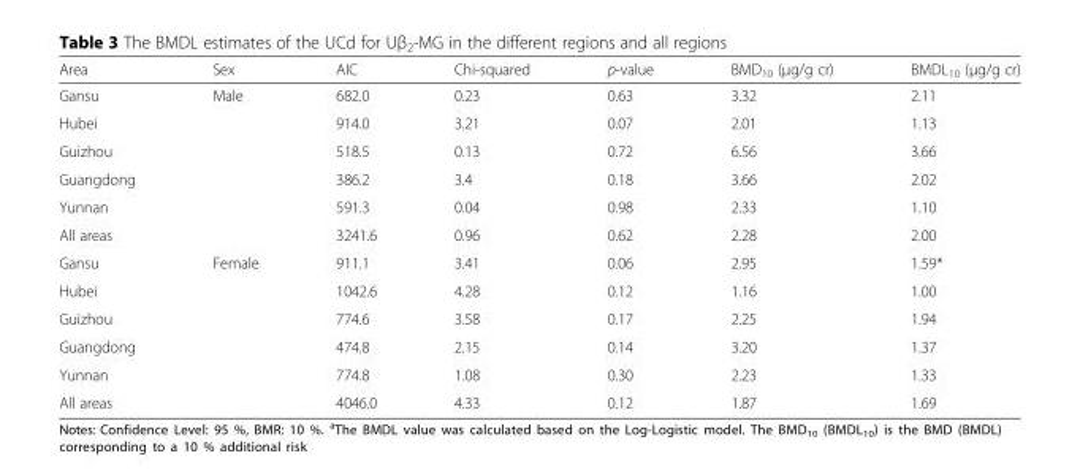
<table><thead><tr><td>Area</td><td>Sex</td><td>AIC</td><td>Chi-squared</td><td>p-value</td><td>BMD<sub>10</sub> (μg/g cr)</td><td>BMDL<sub>10</sub> (μg/g cr)</td></tr></thead><tbody><tr><td>Gansu</td><td>Male</td><td>682.0</td><td>0.23</td><td>0.63</td><td>3.32</td><td>2.11</td></tr><tr><td>Hubei</td><td></td><td>914.0</td><td>3.21</td><td>0.07</td><td>2.01</td><td>1.13</td></tr><tr><td>Guizhou</td><td></td><td>518.5</td><td>0.13</td><td>0.72</td><td>6.56</td><td>3.66</td></tr><tr><td>Guangdong</td><td></td><td>386.2</td><td>3.4</td><td>0.18</td><td>3.66</td><td>2.02</td></tr><tr><td>Yunnan</td><td></td><td>591.3</td><td>0.04</td><td>0.98</td><td>2.33</td><td>1.10</td></tr><tr><td>All areas</td><td></td><td>3241.6</td><td>0.96</td><td>0.62</td><td>2.28</td><td>2.00</td></tr><tr><td>Gansu</td><td>Female</td><td>911.1</td><td>3.41</td><td>0.06</td><td>2.95</td><td>1.59*</td></tr><tr><td>Hubei</td><td></td><td>1042.6</td><td>4.28</td><td>0.12</td><td>1.16</td><td>1.00</td></tr><tr><td>Guizhou</td><td></td><td>774.6</td><td>3.58</td><td>0.17</td><td>2.25</td><td>1.94</td></tr><tr><td>Guangdong</td><td></td><td>474.8</td><td>2.15</td><td>0.14</td><td>3.20</td><td>1.37</td></tr><tr><td>Yunnan</td><td></td><td>774.8</td><td>1.08</td><td>0.30</td><td>2.23</td><td>1.33</td></tr><tr><td>All areas</td><td></td><td>4046.0</td><td>4.33</td><td>0.12</td><td>1.87</td><td>1.69</td></tr></tbody></table>